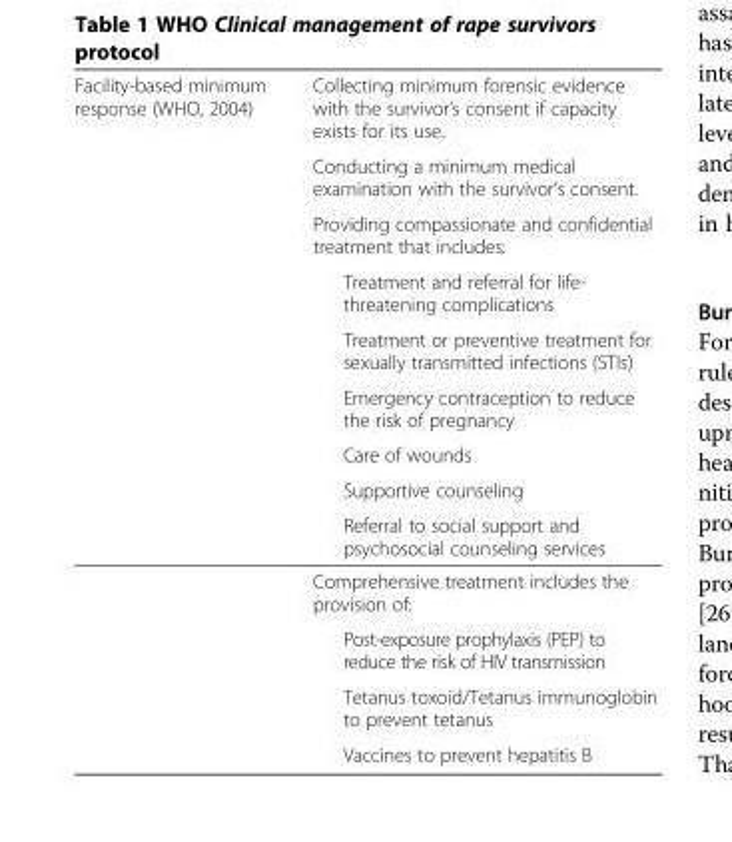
<table><tbody><tr><td rowspan="13">Facility-based minimum response (WHO, 2004)</td><td>Collecting minimum forensic evidence with the survivor’s consent if capacity exists for its use.</td></tr><tr><td>Conducting a minimum medical examination with the survivor’s consent.</td></tr><tr><td>Providing compassionate and confidential treatment that includes:</td></tr><tr><td>Treatment and referral for life- threatening complications</td></tr><tr><td>Treatment or preventive treatment for sexually transmitted infections (STIs)</td></tr><tr><td>Emergency contraception to reduce the risk of pregnancy</td></tr><tr><td>Care of wounds</td></tr><tr><td>Supportive counseling</td></tr><tr><td>Referral to social support and psychosocial counseling services</td></tr><tr><td>Comprehensive treatment includes the provision of:</td></tr><tr><td>Post-exposure prophylaxis (PEP) to reduce the risk of HIV transmission</td></tr><tr><td>Tetanus toxoid/Tetanus immunoglobin to prevent tetanus</td></tr><tr><td>Vaccines to prevent hepatitis B</td></tr></tbody></table>